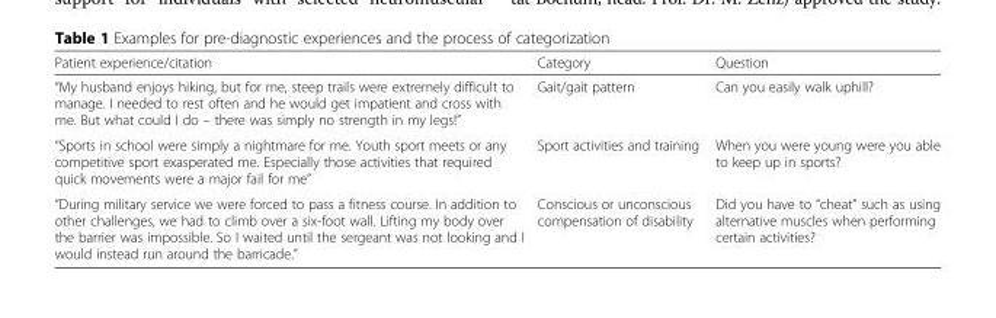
<table><thead><tr><td>Patient experience/citation</td><td>Category</td><td>Question</td></tr></thead><tbody><tr><td>“My husband enjoys hiking, but for me, steep trails were extremely difficult to manage. I needed to rest often and he would get impatient and cross with me. But what could I do – there was simply no strength in my legs!”</td><td>Gait/gait pattern</td><td>Can you easily walk uphill?</td></tr><tr><td>“Sports in school were simply a nightmare for me. Youth sport meets or any competitive sport exasperated me. Especially those activities that required quick movements were a major fail for me”</td><td>Sport activities and training</td><td>When you were young were you able to keep up in sports?</td></tr><tr><td>“During military service we were forced to pass a fitness course. In addition to other challenges, we had to climb over a six-foot wall. Lifting my body over the barrier was impossible. So I waited until the sergeant was not looking and I would instead run around the barricade.”</td><td>Conscious or unconscious compensation of disability</td><td>Did you have to “cheat” such as using alternative muscles when performing certain activities?</td></tr></tbody></table>